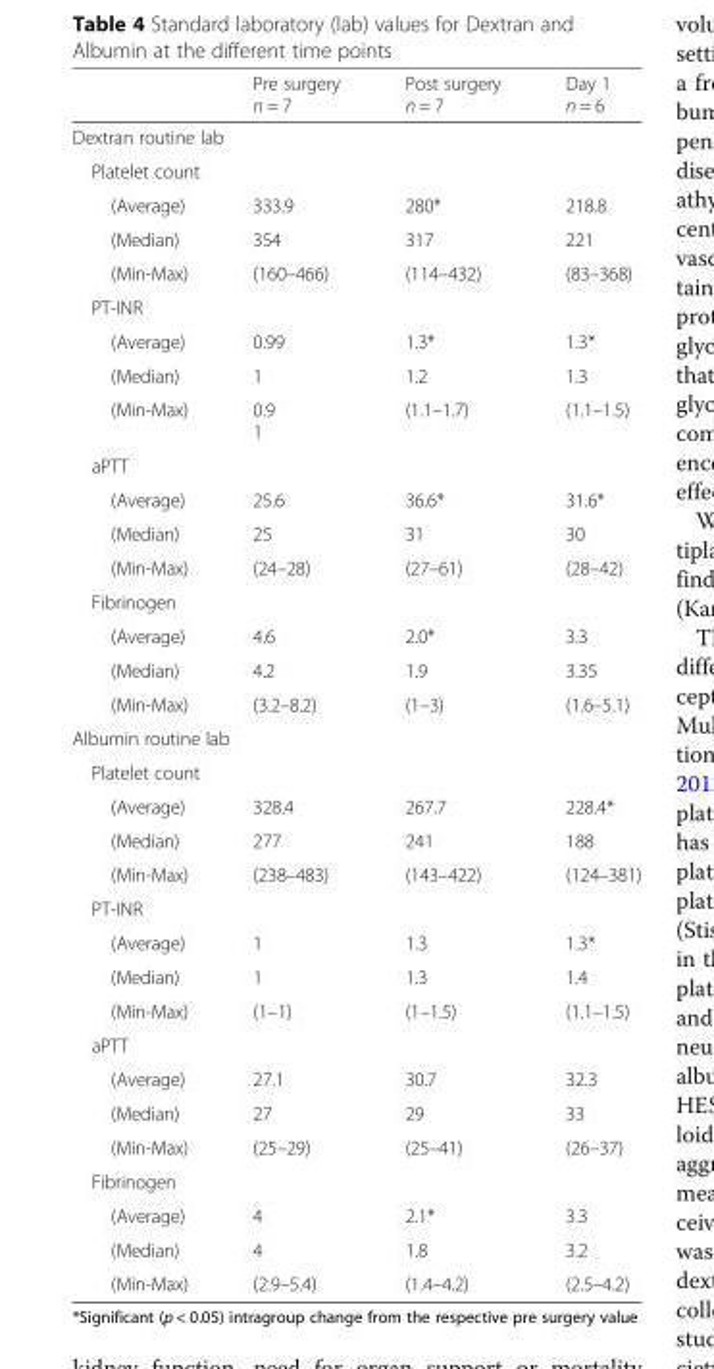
<table><thead><tr><td></td><td>Pre surgery n = 7</td><td>Post surgery n = 7</td><td>Day 1 n = 6</td></tr></thead><tbody><tr><td colspan="4">Dextran routine lab</td></tr><tr><td colspan="4">Platelet count</td></tr><tr><td>(Average)</td><td>333.9</td><td>280*</td><td>218.8</td></tr><tr><td>(Median)</td><td>354</td><td>317</td><td>221</td></tr><tr><td>(Min-Max)</td><td>(160–466)</td><td>(114–432)</td><td>(83–368)</td></tr><tr><td colspan="4">PT-INR</td></tr><tr><td>(Average)</td><td>0.99</td><td>1.3*</td><td>1.3*</td></tr><tr><td>(Median)</td><td>1</td><td>1.2</td><td>1.3</td></tr><tr><td>(Min-Max)</td><td>0.9 1</td><td>(1.1–1.7)</td><td>(1.1–1.5)</td></tr><tr><td colspan="4">aPTT</td></tr><tr><td>(Average)</td><td>25.6</td><td>36.6*</td><td>31.6*</td></tr><tr><td>(Median)</td><td>25</td><td>31</td><td>30</td></tr><tr><td>(Min-Max)</td><td>(24–28)</td><td>(27–61)</td><td>(28–42)</td></tr><tr><td colspan="4">Fibrinogen</td></tr><tr><td>(Average)</td><td>4.6</td><td>2.0*</td><td>3.3</td></tr><tr><td>(Median)</td><td>4.2</td><td>1.9</td><td>3.35</td></tr><tr><td>(Min-Max)</td><td>(3.2–8.2)</td><td>(1–3)</td><td>(1.6–5.1)</td></tr><tr><td colspan="4">Albumin routine lab</td></tr><tr><td colspan="4">Platelet count</td></tr><tr><td>(Average)</td><td>328.4</td><td>267.7</td><td>228.4*</td></tr><tr><td>(Median)</td><td>277</td><td>241</td><td>188</td></tr><tr><td>(Min-Max)</td><td>(238–483)</td><td>(143–422)</td><td>(124–381)</td></tr><tr><td colspan="4">PT-INR</td></tr><tr><td>(Average)</td><td>1</td><td>1.3</td><td>1.3*</td></tr><tr><td>(Median)</td><td>1</td><td>1.3</td><td>1.4</td></tr><tr><td>(Min-Max)</td><td>(1–1)</td><td>(1–1.5)</td><td>(1.1–1.5)</td></tr><tr><td colspan="4">aPTT</td></tr><tr><td>(Average)</td><td>27.1</td><td>30.7</td><td>32.3</td></tr><tr><td>(Median)</td><td>27</td><td>29</td><td>33</td></tr><tr><td>(Min-Max)</td><td>(25–29)</td><td>(25–41)</td><td>(26–37)</td></tr><tr><td colspan="4">Fibrinogen</td></tr><tr><td>(Average)</td><td>4</td><td>2.1*</td><td>3.3</td></tr><tr><td>(Median)</td><td>4</td><td>1.8</td><td>3.2</td></tr><tr><td>(Min-Max)</td><td>(2.9–5.4)</td><td>(1.4–4.2)</td><td>(2.5–4.2)</td></tr></tbody></table>